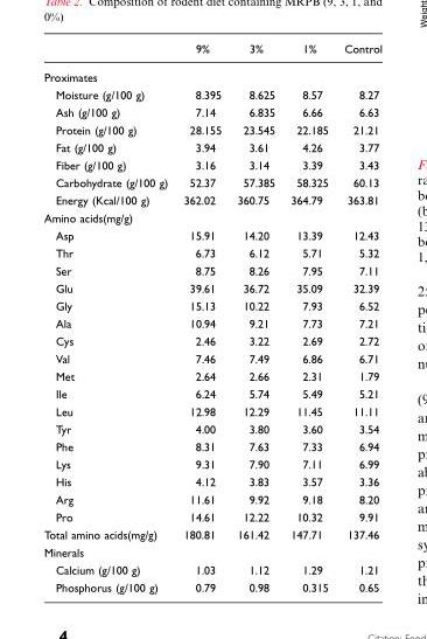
<table><thead><tr><td></td><td>9%</td><td>3%</td><td>1%</td><td>Control</td></tr></thead><tbody><tr><td colspan="5">Proximates</td></tr><tr><td>Moisture (g/100 g)</td><td>8.395</td><td>8.625</td><td>8.57</td><td>8.27</td></tr><tr><td>Ash (g/100 g)</td><td>7.14</td><td>6.835</td><td>6.66</td><td>6.63</td></tr><tr><td>Protein (g/100 g)</td><td>28.155</td><td>23.545</td><td>22.185</td><td>21.21</td></tr><tr><td>Fat (g/100 g)</td><td>3.94</td><td>3.61</td><td>4.26</td><td>3.77</td></tr><tr><td>Fiber (g/100 g)</td><td>3.16</td><td>3.14</td><td>3.39</td><td>3.43</td></tr><tr><td>Carbohydrate (g/100 g)</td><td>52.37</td><td>57.385</td><td>58.325</td><td>60.13</td></tr><tr><td>Energy (Kcal/100 g)</td><td>362.02</td><td>360.75</td><td>364.79</td><td>363.81</td></tr><tr><td colspan="5">Amino acids(mg/g)</td></tr><tr><td>Asp</td><td>15.91</td><td>14.20</td><td>13.39</td><td>12.43</td></tr><tr><td>Thr</td><td>6.73</td><td>6.12</td><td>5.71</td><td>5.32</td></tr><tr><td>Ser</td><td>8.75</td><td>8.26</td><td>7.95</td><td>7.11</td></tr><tr><td>Glu</td><td>39.61</td><td>36.72</td><td>35.09</td><td>32.39</td></tr><tr><td>Gly</td><td>15.13</td><td>10.22</td><td>7.93</td><td>6.52</td></tr><tr><td>Ala</td><td>10.94</td><td>9.21</td><td>7.73</td><td>7.21</td></tr><tr><td>Cys</td><td>2.46</td><td>3.22</td><td>2.69</td><td>2.72</td></tr><tr><td>Val</td><td>7.46</td><td>7.49</td><td>6.86</td><td>6.71</td></tr><tr><td>Met</td><td>2.64</td><td>2.66</td><td>2.31</td><td>1.79</td></tr><tr><td>Ile</td><td>6.24</td><td>5.74</td><td>5.49</td><td>5.21</td></tr><tr><td>Leu</td><td>12.98</td><td>12.29</td><td>11.45</td><td>11.11</td></tr><tr><td>Tyr</td><td>4.00</td><td>3.80</td><td>3.60</td><td>3.54</td></tr><tr><td>Phe</td><td>8.31</td><td>7.63</td><td>7.33</td><td>6.94</td></tr><tr><td>Lys</td><td>9.31</td><td>7.90</td><td>7.11</td><td>6.99</td></tr><tr><td>His</td><td>4.12</td><td>3.83</td><td>3.57</td><td>3.36</td></tr><tr><td>Arg</td><td>11.61</td><td>9.92</td><td>9.18</td><td>8.20</td></tr><tr><td>Pro</td><td>14.61</td><td>12.22</td><td>10.32</td><td>9.91</td></tr><tr><td>Total amino acids(mg/g)</td><td>180.81</td><td>161.42</td><td>147.71</td><td>137.46</td></tr><tr><td colspan="5">Minerals</td></tr><tr><td>Calcium (g/100 g)</td><td>1.03</td><td>1.12</td><td>1.29</td><td>1.21</td></tr><tr><td>Phosphorus (g/100 g)</td><td>0.79</td><td>0.98</td><td>0.315</td><td>0.65</td></tr></tbody></table>